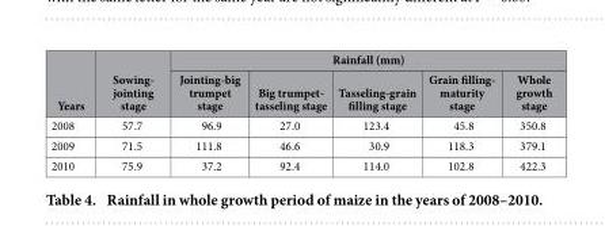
<table><thead><tr><td rowspan="2">Years</td><td rowspan="2">Sowing- jointing stage</td><td colspan="5">Rainfall (mm)</td></tr><tr><td>Jointing-big trumpet stage</td><td>Big trumpet- tasseling stage</td><td>Tasseling-grain filling stage</td><td>Grain filling- maturity stage</td><td>Whole growth stage</td></tr></thead><tbody><tr><td>2008</td><td>57.7</td><td>96.9</td><td>27.0</td><td>123.4</td><td>45.8</td><td>350.8</td></tr><tr><td>2009</td><td>71.5</td><td>111.8</td><td>46.6</td><td>30.9</td><td>118.3</td><td>379.1</td></tr><tr><td>2010</td><td>75.9</td><td>37.2</td><td>92.4</td><td>114.0</td><td>102.8</td><td>422.3</td></tr></tbody></table>